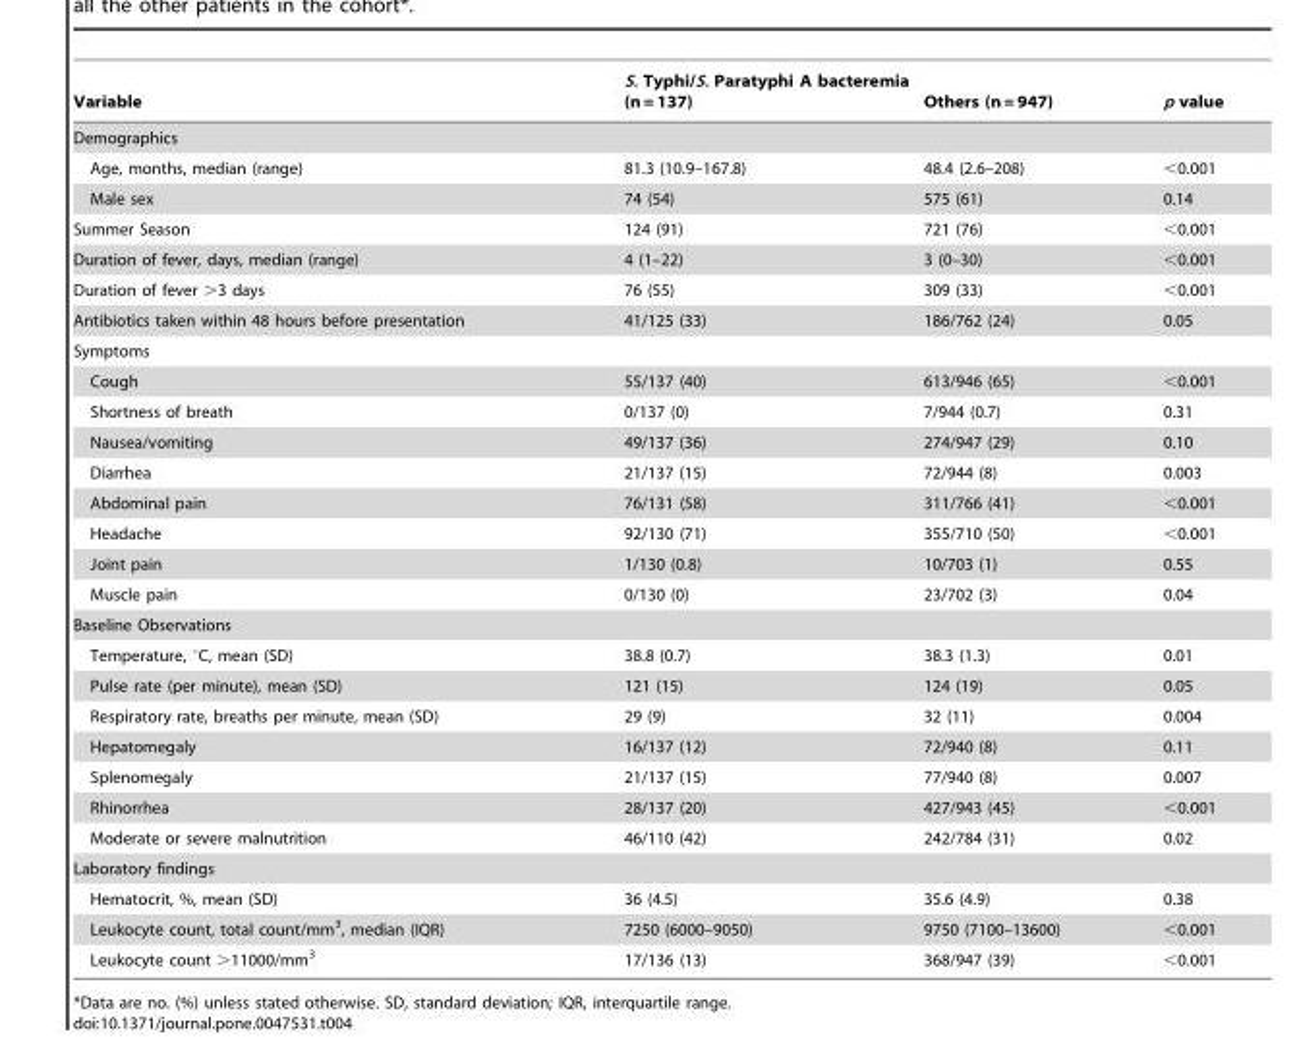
<table><thead><tr><td>Variable</td><td>S. Typhi/S. Paratyphi A bacteremia (n = 137)</td><td>Others (n = 947)</td><td>p value</td></tr></thead><tbody><tr><td colspan="4">Demographics</td></tr><tr><td>Age, months, median (range)</td><td>81.3 (10.9–167.8)</td><td>48.4 (2.6–208)</td><td>&lt;0.001</td></tr><tr><td>Male sex</td><td>74 (54)</td><td>575 (61)</td><td>0.14</td></tr><tr><td>Summer Season</td><td>124 (91)</td><td>721 (76)</td><td>&lt;0.001</td></tr><tr><td>Duration of fever, days, median (range)</td><td>4 (1–22)</td><td>3 (0–30)</td><td>&lt;0.001</td></tr><tr><td>Duration of fever &gt;3 days</td><td>76 (55)</td><td>309 (33)</td><td>&lt;0.001</td></tr><tr><td>Antibiotics taken within 48 hours before presentation</td><td>41/125 (33)</td><td>186/762 (24)</td><td>0.05</td></tr><tr><td colspan="4">Symptoms</td></tr><tr><td>Cough</td><td>55/137 (40)</td><td>613/946 (65)</td><td>&lt;0.001</td></tr><tr><td>Shortness of breath</td><td>0/137 (0)</td><td>7/944 (0.7)</td><td>0.31</td></tr><tr><td>Nausea/vomiting</td><td>49/137 (36)</td><td>274/947 (29)</td><td>0.10</td></tr><tr><td>Diarrhea</td><td>21/137 (15)</td><td>72/944 (8)</td><td>0.003</td></tr><tr><td>Abdominal pain</td><td>76/131 (58)</td><td>311/766 (41)</td><td>&lt;0.001</td></tr><tr><td>Headache</td><td>92/130 (71)</td><td>355/710 (50)</td><td>&lt;0.001</td></tr><tr><td>Joint pain</td><td>1/130 (0.8)</td><td>10/703 (1)</td><td>0.55</td></tr><tr><td>Muscle pain</td><td>0/130 (0)</td><td>23/702 (3)</td><td>0.04</td></tr><tr><td colspan="4">Baseline Observations</td></tr><tr><td>Temperature, °C, mean (SD)</td><td>38.8 (0.7)</td><td>38.3 (1.3)</td><td>0.01</td></tr><tr><td>Pulse rate (per minute), mean (SD)</td><td>121 (15)</td><td>124 (19)</td><td>0.05</td></tr><tr><td>Respiratory rate, breaths per minute, mean (SD)</td><td>29 (9)</td><td>32 (11)</td><td>0.004</td></tr><tr><td>Hepatomegaly</td><td>16/137 (12)</td><td>72/940 (8)</td><td>0.11</td></tr><tr><td>Splenomegaly</td><td>21/137 (15)</td><td>77/940 (8)</td><td>0.007</td></tr><tr><td>Rhinorrhea</td><td>28/137 (20)</td><td>427/943 (45)</td><td>&lt;0.001</td></tr><tr><td>Moderate or severe malnutrition</td><td>46/110 (42)</td><td>242/784 (31)</td><td>0.02</td></tr><tr><td colspan="4">Laboratory findings</td></tr><tr><td>Hematocrit, %, mean (SD)</td><td>36 (4.5)</td><td>35.6 (4.9)</td><td>0.38</td></tr><tr><td>Leukocyte count, total count/mm<sup>3</sup>, median (IQR)</td><td>7250 (6000–9050)</td><td>9750 (7100–13600)</td><td>&lt;0.001</td></tr><tr><td>Leukocyte count &gt;11000/mm<sup>3</sup></td><td>17/136 (13)</td><td>368/947 (39)</td><td>&lt;0.001</td></tr></tbody></table>